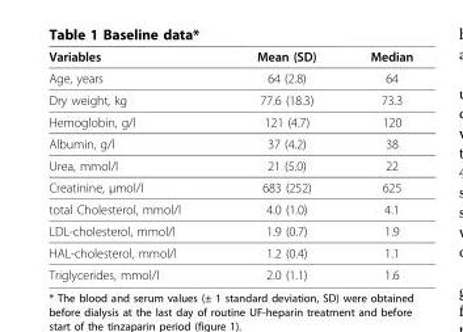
<table><thead><tr><td>Variables</td><td>Mean (SD)</td><td>Median</td></tr></thead><tbody><tr><td>Age, years</td><td>64 (2.8)</td><td>64</td></tr><tr><td>Dry weight, kg</td><td>77.6 (18.3)</td><td>73.3</td></tr><tr><td>Hemoglobin, g/l</td><td>121 (4.7)</td><td>120</td></tr><tr><td>Albumin, g/l</td><td>37 (4.2)</td><td>38</td></tr><tr><td>Urea, mmol/l</td><td>21 (5.0)</td><td>22</td></tr><tr><td>Creatinine, μmol/l</td><td>683 (252)</td><td>625</td></tr><tr><td>total Cholesterol, mmol/l</td><td>4.0 (1.0)</td><td>4.1</td></tr><tr><td>LDL-cholesterol, mmol/l</td><td>1.9 (0.7)</td><td>1.9</td></tr><tr><td>HAL-cholesterol, mmol/l</td><td>1.2 (0.4)</td><td>1.1</td></tr><tr><td>Triglycerides, mmol/l</td><td>2.0 (1.1)</td><td>1.6</td></tr></tbody></table>